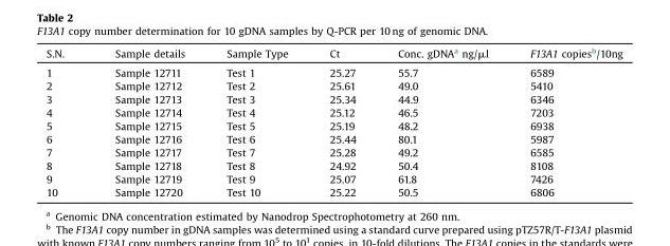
<table><thead><tr><td>S.N.</td><td>Sample details</td><td>Sample Type</td><td>Ct</td><td>Conc. gDNA<sup>a</sup> ng/μl</td><td>F13A1 copies<sup>b</sup>/10ng</td></tr></thead><tbody><tr><td>1</td><td>Sample 12711</td><td>Test 1</td><td>25.27</td><td>55.7</td><td>6589</td></tr><tr><td>2</td><td>Sample 12712</td><td>Test 2</td><td>25.61</td><td>49.0</td><td>5410</td></tr><tr><td>3</td><td>Sample 12713</td><td>Test 3</td><td>25.34</td><td>44.9</td><td>6346</td></tr><tr><td>4</td><td>Sample 12714</td><td>Test 4</td><td>25.12</td><td>46.5</td><td>7203</td></tr><tr><td>5</td><td>Sample 12715</td><td>Test 5</td><td>25.19</td><td>48.2</td><td>6938</td></tr><tr><td>6</td><td>Sample 12716</td><td>Test 6</td><td>25.44</td><td>80.1</td><td>5987</td></tr><tr><td>7</td><td>Sample 12717</td><td>Test 7</td><td>25.28</td><td>49.2</td><td>6585</td></tr><tr><td>8</td><td>Sample 12718</td><td>Test 8</td><td>24.92</td><td>50.4</td><td>8108</td></tr><tr><td>9</td><td>Sample 12719</td><td>Test 9</td><td>25.07</td><td>61.8</td><td>7426</td></tr><tr><td>10</td><td>Sample 12720</td><td>Test 10</td><td>25.22</td><td>50.5</td><td>6806</td></tr></tbody></table>